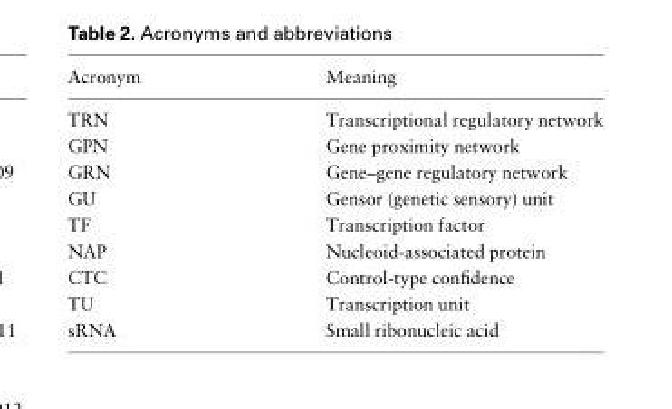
<table><thead><tr><td>Acronym</td><td>Meaning</td></tr></thead><tbody><tr><td>TRN</td><td>Transcriptional regulatory network</td></tr><tr><td>GPN</td><td>Gene proximity network</td></tr><tr><td>GRN</td><td>Gene–gene regulatory network</td></tr><tr><td>GU</td><td>Gensor (genetic sensory) unit</td></tr><tr><td>TF</td><td>Transcription factor</td></tr><tr><td>NAP</td><td>Nucleoid-associated protein</td></tr><tr><td>CTC</td><td>Control-type confidence</td></tr><tr><td>TU</td><td>Transcription unit</td></tr><tr><td>sRNA</td><td>Small ribonucleic acid</td></tr></tbody></table>